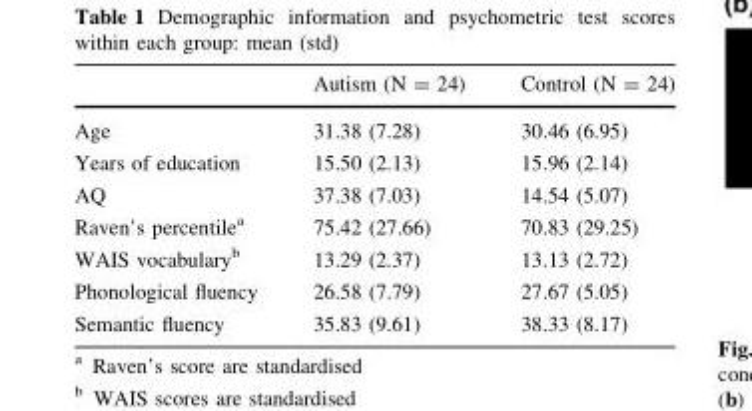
<table><thead><tr><td></td><td>Autism (N = 24)</td><td>Control (N = 24)</td></tr></thead><tbody><tr><td>Age</td><td>31.38 (7.28)</td><td>30.46 (6.95)</td></tr><tr><td>Years of education</td><td>15.50 (2.13)</td><td>15.96 (2.14)</td></tr><tr><td>AQ</td><td>37.38 (7.03)</td><td>14.54 (5.07)</td></tr><tr><td>Raven’s percentile<sup>a</sup></td><td>75.42 (27.66)</td><td>70.83 (29.25)</td></tr><tr><td>WAIS vocabulary<sup>b</sup></td><td>13.29 (2.37)</td><td>13.13 (2.72)</td></tr><tr><td>Phonological fluency</td><td>26.58 (7.79)</td><td>27.67 (5.05)</td></tr><tr><td>Semantic fluency</td><td>35.83 (9.61)</td><td>38.33 (8.17)</td></tr></tbody></table>